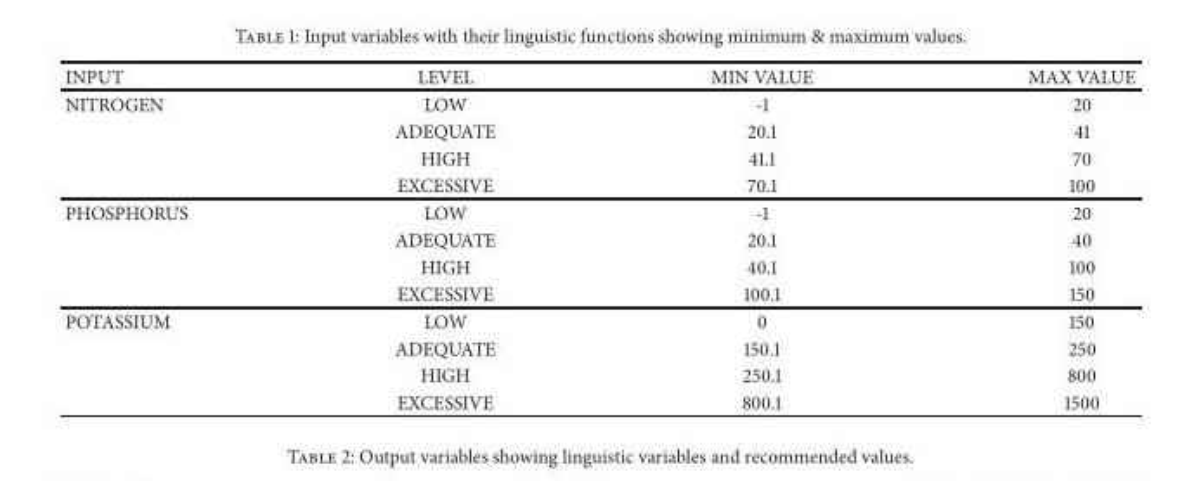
<table><thead><tr><td>INPUT</td><td>LEVEL</td><td>MIN VALUE</td><td>MAX VALUE</td></tr></thead><tbody><tr><td rowspan="4">NITROGEN</td><td>LOW</td><td>-1</td><td>20</td></tr><tr><td>ADEQUATE</td><td>20.1</td><td>41</td></tr><tr><td>HIGH</td><td>41.1</td><td>70</td></tr><tr><td>EXCESSIVE</td><td>70.1</td><td>100</td></tr><tr><td rowspan="4">PHOSPHORUS</td><td>LOW</td><td>-1</td><td>20</td></tr><tr><td>ADEQUATE</td><td>20.1</td><td>40</td></tr><tr><td>HIGH</td><td>40.1</td><td>100</td></tr><tr><td>EXCESSIVE</td><td>100.1</td><td>150</td></tr><tr><td rowspan="4">POTASSIUM</td><td>LOW</td><td>0</td><td>150</td></tr><tr><td>ADEQUATE</td><td>150.1</td><td>250</td></tr><tr><td>HIGH</td><td>250.1</td><td>800</td></tr><tr><td>EXCESSIVE</td><td>800.1</td><td>1500</td></tr></tbody></table>